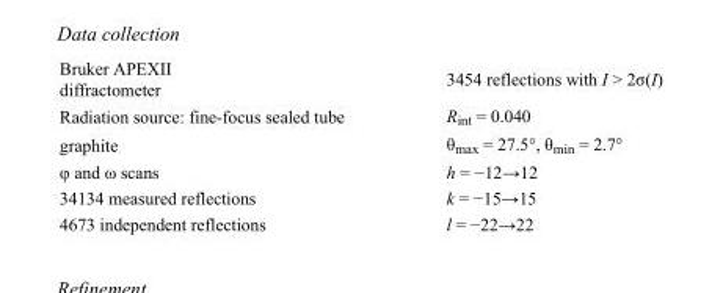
<table><tbody><tr><td>Bruker APEXII diffractometer</td><td>3454 reflections with I &gt; 2σ(I)</td></tr><tr><td>Radiation source: fine-focus sealed tube</td><td>R<sub>int</sub> = 0.040</td></tr><tr><td>graphite</td><td>θ<sub>max</sub> = 27.5°, θ<sub>min</sub> = 2.7°</td></tr><tr><td>φ and ω scans</td><td>h = −12→12</td></tr><tr><td>34134 measured reflections</td><td>k = −15→15</td></tr><tr><td>4673 independent reflections</td><td>l = −22→22</td></tr></tbody></table>